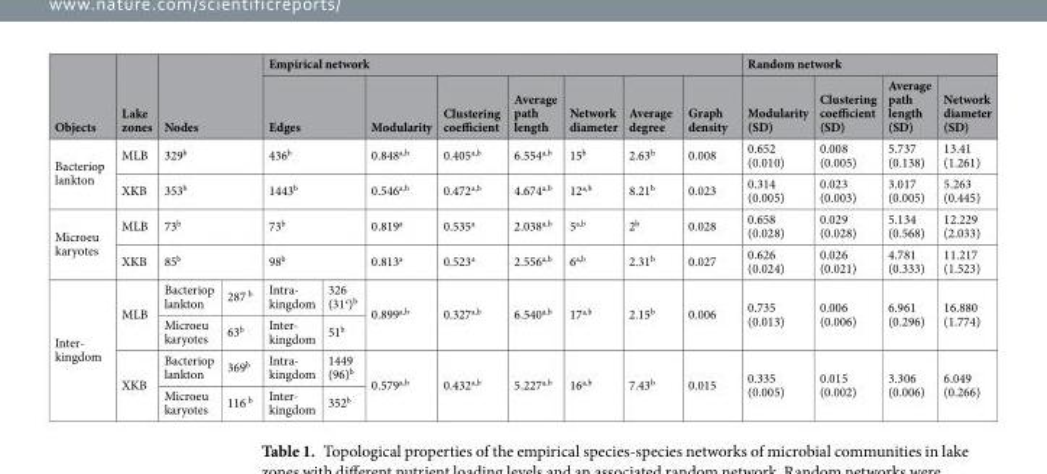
<table><thead><tr><td rowspan="2">Objects</td><td rowspan="2">Lake zones</td><td rowspan="2" colspan="2">Nodes</td><td colspan="8">Empirical network</td><td colspan="4">Random network</td></tr><tr><td colspan="2">Edges</td><td>Modularity</td><td>Clustering coefficient</td><td>Average path length</td><td>Network diameter</td><td>Average degree</td><td>Graph density</td><td>Modularity (SD)</td><td>Clustering coefficient (SD)</td><td>Average path length (SD)</td><td>Network diameter (SD)</td></tr></thead><tbody><tr><td rowspan="2">Bacteriop lankton</td><td>MLB</td><td colspan="2">329<sup>b</sup></td><td colspan="2">436<sup>b</sup></td><td>0.848<sup>a,b</sup></td><td>0.405<sup>a,b</sup></td><td>6.554<sup>a,b</sup></td><td>15<sup>b</sup></td><td>2.63<sup>b</sup></td><td>0.008</td><td>0.652 (0.010)</td><td>0.008 (0.005)</td><td>5.737 (0.138)</td><td>13.41 (1.261)</td></tr><tr><td>XKB</td><td colspan="2">353<sup>b</sup></td><td colspan="2">1443<sup>b</sup></td><td>0.546<sup>a,b</sup></td><td>0.472<sup>a,b</sup></td><td>4.674<sup>a,b</sup></td><td>12<sup>a,b</sup></td><td>8.21<sup>b</sup></td><td>0.023</td><td>0.314 (0.005)</td><td>0.023 (0.003)</td><td>3.017 (0.005)</td><td>5.263 (0.445)</td></tr><tr><td rowspan="2">Microeu karyotes</td><td>MLB</td><td colspan="2">73<sup>b</sup></td><td colspan="2">73<sup>b</sup></td><td>0.819<sup>a</sup></td><td>0.535<sup>a</sup></td><td>2.038<sup>a,b</sup></td><td>5<sup>a,b</sup></td><td>2<sup>b</sup></td><td>0.028</td><td>0.658 (0.028)</td><td>0.029 (0.028)</td><td>5.134 (0.568)</td><td>12.229 (2.033)</td></tr><tr><td>XKB</td><td colspan="2">85<sup>b</sup></td><td colspan="2">98<sup>b</sup></td><td>0.813<sup>a</sup></td><td>0.523<sup>a</sup></td><td>2.556<sup>a,b</sup></td><td>6<sup>a,b</sup></td><td>2.31<sup>b</sup></td><td>0.027</td><td>0.626 (0.024)</td><td>0.026 (0.021)</td><td>4.781 (0.333)</td><td>11.217 (1.523)</td></tr><tr><td rowspan="4">Inter- kingdom</td><td rowspan="2">MLB</td><td>Bacteriop lankton</td><td>287 <sup>b</sup></td><td>Intra- kingdom</td><td>326 (31<sup>c</sup>)<sup>b</sup></td><td rowspan="2">0.899<sup>a,b</sup></td><td rowspan="2">0.327<sup>a,b</sup></td><td rowspan="2">6.540<sup>a,b</sup></td><td rowspan="2">17<sup>a,b</sup></td><td rowspan="2">2.15<sup>b</sup></td><td rowspan="2">0.006</td><td rowspan="2">0.735 (0.013)</td><td rowspan="2">0.006 (0.006)</td><td rowspan="2">6.961 (0.296)</td><td rowspan="2">16.880 (1.774)</td></tr><tr><td>Microeu karyotes</td><td>63<sup>b</sup></td><td>Inter- kingdom</td><td>51<sup>b</sup></td></tr><tr><td rowspan="2">XKB</td><td>Bacteriop lankton</td><td>369<sup>b</sup></td><td>Intra- kingdom</td><td>1449 (96)<sup>b</sup></td><td rowspan="2">0.579<sup>a,b</sup></td><td rowspan="2">0.432<sup>a,b</sup></td><td rowspan="2">5.227<sup>a,b</sup></td><td rowspan="2">16<sup>a,b</sup></td><td rowspan="2">7.43<sup>b</sup></td><td rowspan="2">0.015</td><td rowspan="2">0.335 (0.005)</td><td rowspan="2">0.015 (0.002)</td><td rowspan="2">3.306 (0.006)</td><td rowspan="2">6.049 (0.266)</td></tr><tr><td>Microeu karyotes</td><td>116 <sup>b</sup></td><td>Inter- kingdom</td><td>352<sup>b</sup></td></tr></tbody></table>